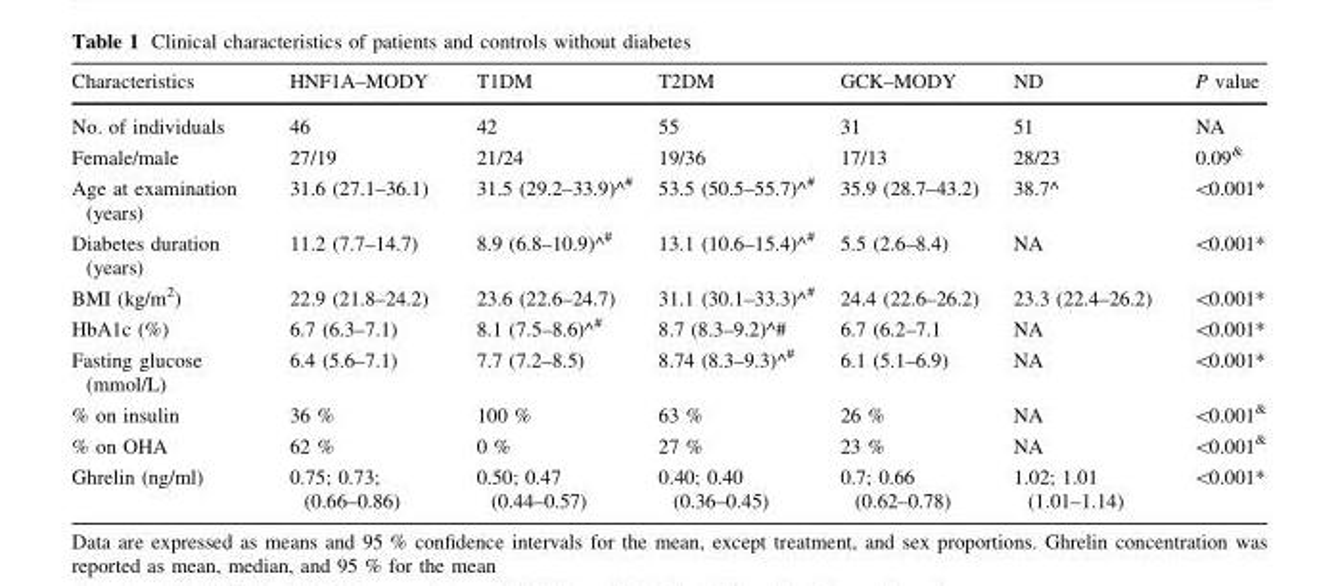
<table><thead><tr><td>Characteristics</td><td>HNF1A–MODY</td><td>T1DM</td><td>T2DM</td><td>GCK–MODY</td><td>ND</td><td>P value</td></tr></thead><tbody><tr><td>No. of individuals</td><td>46</td><td>42</td><td>55</td><td>31</td><td>51</td><td>NA</td></tr><tr><td>Female/male</td><td>27/19</td><td>21/24</td><td>19/36</td><td>17/13</td><td>28/23</td><td>0.09<sup>&amp;</sup></td></tr><tr><td>Age at examination (years)</td><td>31.6 (27.1–36.1)</td><td>31.5 (29.2–33.9)^#</td><td>53.5 (50.5–55.7)^#</td><td>35.9 (28.7–43.2)</td><td>38.7^</td><td>&lt;0.001*</td></tr><tr><td>Diabetes duration (years)</td><td>11.2 (7.7–14.7)</td><td>8.9 (6.8–10.9)^#</td><td>13.1 (10.6–15.4)^#</td><td>5.5 (2.6–8.4)</td><td>NA</td><td>&lt;0.001*</td></tr><tr><td>BMI (kg/m<sup>2</sup>)</td><td>22.9 (21.8–24.2)</td><td>23.6 (22.6–24.7)</td><td>31.1 (30.1–33.3)^#</td><td>24.4 (22.6–26.2)</td><td>23.3 (22.4–26.2)</td><td>&lt;0.001*</td></tr><tr><td>HbA1c (%)</td><td>6.7 (6.3–7.1)</td><td>8.1 (7.5–8.6)^#</td><td>8.7 (8.3–9.2)^#</td><td>6.7 (6.2–7.1</td><td>NA</td><td>&lt;0.001*</td></tr><tr><td>Fasting glucose (mmol/L)</td><td>6.4 (5.6–7.1)</td><td>7.7 (7.2–8.5)</td><td>8.74 (8.3–9.3)^#</td><td>6.1 (5.1–6.9)</td><td>NA</td><td>&lt;0.001*</td></tr><tr><td>% on insulin</td><td>36 %</td><td>100 %</td><td>63 %</td><td>26 %</td><td>NA</td><td>&lt;0.001<sup>&amp;</sup></td></tr><tr><td>% on OHA</td><td>62 %</td><td>0 %</td><td>27 %</td><td>23 %</td><td>NA</td><td>&lt;0.001<sup>&amp;</sup></td></tr><tr><td>Ghrelin (ng/ml)</td><td>0.75; 0.73; (0.66–0.86)</td><td>0.50; 0.47 (0.44–0.57)</td><td>0.40; 0.40 (0.36–0.45)</td><td>0.7; 0.66 (0.62–0.78)</td><td>1.02; 1.01 (1.01–1.14)</td><td>&lt;0.001*</td></tr></tbody></table>